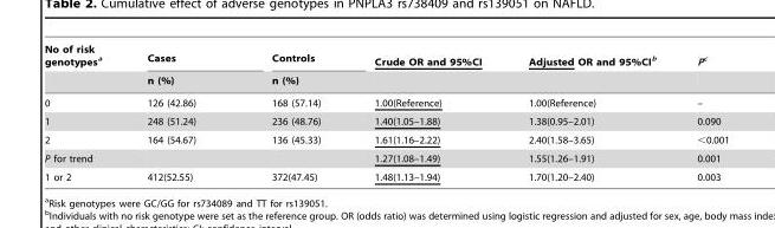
<table><thead><tr><td rowspan="2">No of risk genotypes<sup>a</sup></td><td rowspan="2">Cases n (%)</td><td rowspan="2">Controls n (%)</td><td rowspan="2">Crude OR and 95%CI</td><td rowspan="2">Adjusted OR and 95%CI<sup>b</sup></td><td rowspan="2">Pc</td></tr><tr></tr></thead><tbody><tr><td>0</td><td>126 (42.86)</td><td>168 (57.14)</td><td>1.00(Reference)</td><td>1.00(Reference)</td><td>–</td></tr><tr><td>1</td><td>248 (51.24)</td><td>236 (48.76)</td><td>1.40(1.05–1.88)</td><td>1.38(0.95–2.01)</td><td>0.090</td></tr><tr><td>2</td><td>164 (54.67)</td><td>136 (45.33)</td><td>1.61(1.16–2.22)</td><td>2.40(1.58–3.65)</td><td>&lt;0.001</td></tr><tr><td>P for trend</td><td></td><td></td><td>1.27(1.08–1.49)</td><td>1.55(1.26–1.91)</td><td>0.001</td></tr><tr><td>1 or 2</td><td>412(52.55)</td><td>372(47.45)</td><td>1.48(1.13–1.94)</td><td>1.70(1.20–2.40)</td><td>0.003</td></tr></tbody></table>